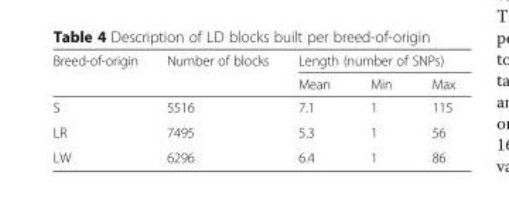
<table><thead><tr><td rowspan="2">Breed-of-origin</td><td rowspan="2">Number of blocks</td><td colspan="3">Length (number of SNPs)</td></tr><tr><td>Mean</td><td>Min</td><td>Max</td></tr></thead><tbody><tr><td>S</td><td>5516</td><td>7.1</td><td>1</td><td>115</td></tr><tr><td>LR</td><td>7495</td><td>5.3</td><td>1</td><td>56</td></tr><tr><td>LW</td><td>6296</td><td>6.4</td><td>1</td><td>86</td></tr></tbody></table>